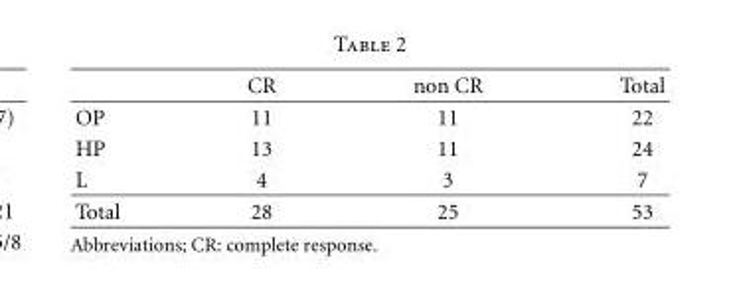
<table><thead><tr><td></td><td>CR</td><td>non CR</td><td>Total</td></tr></thead><tbody><tr><td>OP</td><td>11</td><td>11</td><td>22</td></tr><tr><td>HP</td><td>13</td><td>11</td><td>24</td></tr><tr><td>L</td><td>4</td><td>3</td><td>7</td></tr><tr><td>Total</td><td>28</td><td>25</td><td>53</td></tr></tbody></table>